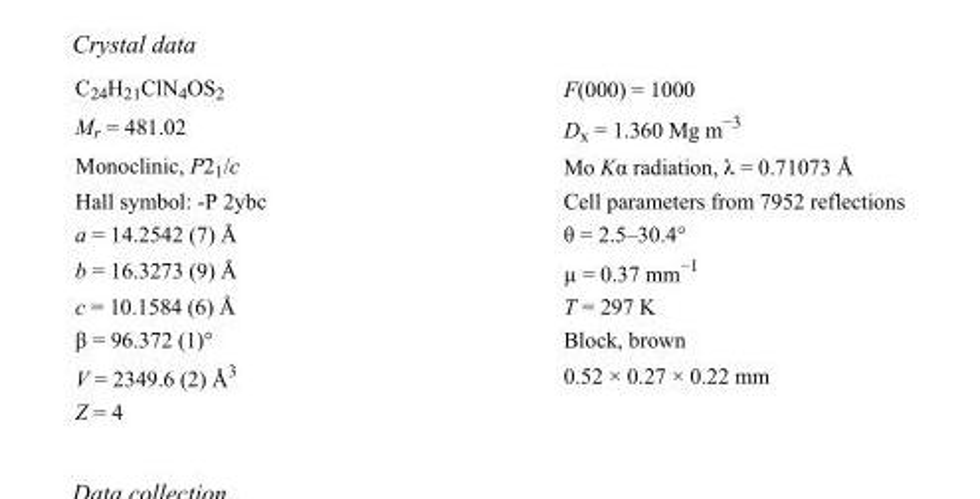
<table><tbody><tr><td>C<sub>24</sub>H<sub>21</sub>ClN<sub>4</sub>OS<sub>2</sub></td><td>F(000) = 1000</td></tr><tr><td>M<sub>r</sub> = 481.02</td><td>D<sub>x</sub> = 1.360 Mg m<sup>−3</sup></td></tr><tr><td>Monoclinic, P2<sub>1</sub>/c</td><td>Mo Kα radiation, λ = 0.71073 Å</td></tr><tr><td>Hall symbol: -P 2ybc</td><td>Cell parameters from 7952 reflections</td></tr><tr><td>a = 14.2542 (7) Å</td><td>θ = 2.5–30.4°</td></tr><tr><td>b = 16.3273 (9) Å</td><td>µ = 0.37 mm<sup>−1</sup></td></tr><tr><td>c = 10.1584 (6) Å</td><td>T = 297 K</td></tr><tr><td>β = 96.372 (1)°</td><td>Block, brown</td></tr><tr><td>V = 2349.6 (2) Å<sup>3</sup></td><td>0.52 × 0.27 × 0.22 mm</td></tr><tr><td>Z = 4</td><td></td></tr></tbody></table>